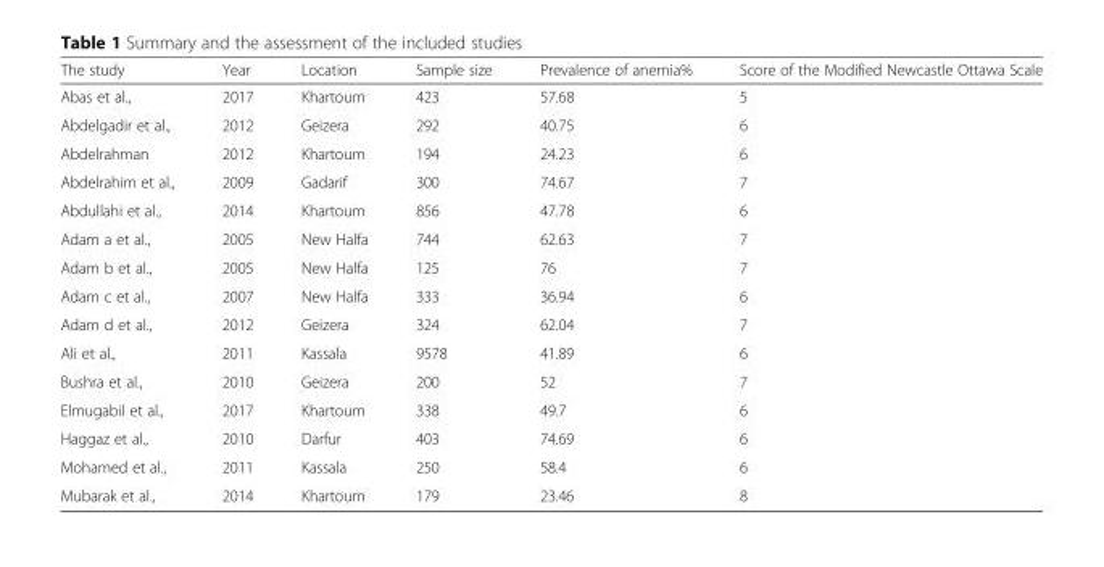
<table><thead><tr><td>The study</td><td>Year</td><td>Location</td><td>Sample size</td><td>Prevalence of anemia%</td><td>Score of the Modified Newcastle Ottawa Scale</td></tr></thead><tbody><tr><td>Abas et al.,</td><td>2017</td><td>Khartoum</td><td>423</td><td>57.68</td><td>5</td></tr><tr><td>Abdelgadir et al.,</td><td>2012</td><td>Geizera</td><td>292</td><td>40.75</td><td>6</td></tr><tr><td>Abdelrahman</td><td>2012</td><td>Khartoum</td><td>194</td><td>24.23</td><td>6</td></tr><tr><td>Abdelrahim et al.,</td><td>2009</td><td>Gadarif</td><td>300</td><td>74.67</td><td>7</td></tr><tr><td>Abdullahi et al.,</td><td>2014</td><td>Khartoum</td><td>856</td><td>47.78</td><td>6</td></tr><tr><td>Adam a et al.,</td><td>2005</td><td>New Halfa</td><td>744</td><td>62.63</td><td>7</td></tr><tr><td>Adam b et al.,</td><td>2005</td><td>New Halfa</td><td>125</td><td>76</td><td>7</td></tr><tr><td>Adam c et al.,</td><td>2007</td><td>New Halfa</td><td>333</td><td>36.94</td><td>6</td></tr><tr><td>Adam d et al.,</td><td>2012</td><td>Geizera</td><td>324</td><td>62.04</td><td>7</td></tr><tr><td>Ali et al.,</td><td>2011</td><td>Kassala</td><td>9578</td><td>41.89</td><td>6</td></tr><tr><td>Bushra et al.,</td><td>2010</td><td>Geizera</td><td>200</td><td>52</td><td>7</td></tr><tr><td>Elmugabil et al.,</td><td>2017</td><td>Khartoum</td><td>338</td><td>49.7</td><td>6</td></tr><tr><td>Haggaz et al.,</td><td>2010</td><td>Darfur</td><td>403</td><td>74.69</td><td>6</td></tr><tr><td>Mohamed et al.,</td><td>2011</td><td>Kassala</td><td>250</td><td>58.4</td><td>6</td></tr><tr><td>Mubarak et al.,</td><td>2014</td><td>Khartoum</td><td>179</td><td>23.46</td><td>8</td></tr></tbody></table>